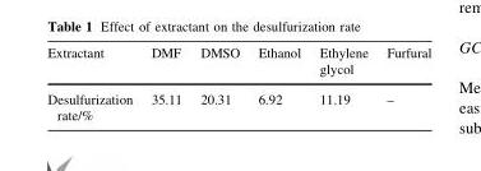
<table><thead><tr><td>Extractant</td><td>DMF</td><td>DMSO</td><td>Ethanol</td><td>Ethylene glycol</td><td>Furfural</td></tr></thead><tbody><tr><td>Desulfurization rate/%</td><td>35.11</td><td>20.31</td><td>6.92</td><td>11.19</td><td>–</td></tr></tbody></table>